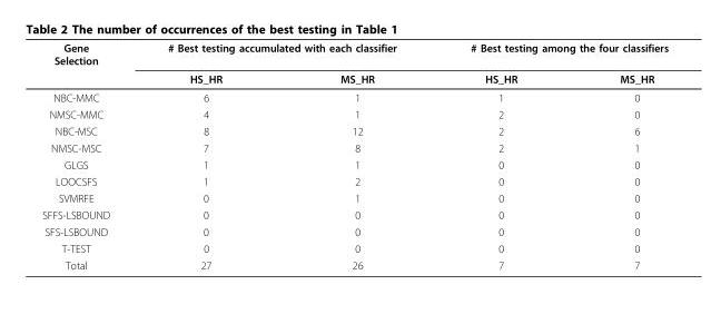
<table><thead><tr><td rowspan="2">Gene Selection</td><td colspan="2"># Best testing accumulated with each classifier</td><td colspan="2"># Best testing among the four classifiers</td></tr><tr><td>HS_HR</td><td>MS_HR</td><td>HS_HR</td><td>MS_HR</td></tr></thead><tbody><tr><td>NBC-MMC</td><td>6</td><td>1</td><td>1</td><td>0</td></tr><tr><td>NMSC-MMC</td><td>4</td><td>1</td><td>2</td><td>0</td></tr><tr><td>NBC-MSC</td><td>8</td><td>12</td><td>2</td><td>6</td></tr><tr><td>NMSC-MSC</td><td>7</td><td>8</td><td>2</td><td>1</td></tr><tr><td>GLGS</td><td>1</td><td>1</td><td>0</td><td>0</td></tr><tr><td>LOOCSFS</td><td>1</td><td>2</td><td>0</td><td>0</td></tr><tr><td>SVMRFE</td><td>0</td><td>1</td><td>0</td><td>0</td></tr><tr><td>SFFS-LSBOUND</td><td>0</td><td>0</td><td>0</td><td>0</td></tr><tr><td>SFS-LSBOUND</td><td>0</td><td>0</td><td>0</td><td>0</td></tr><tr><td>T-TEST</td><td>0</td><td>0</td><td>0</td><td>0</td></tr><tr><td>Total</td><td>27</td><td>26</td><td>7</td><td>7</td></tr></tbody></table>